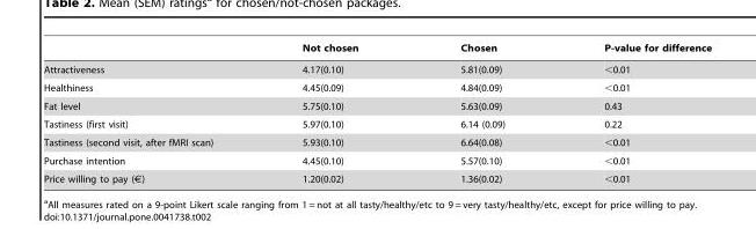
<table><thead><tr><td></td><td>Not chosen</td><td>Chosen</td><td>P-value for difference</td></tr></thead><tbody><tr><td>Attractiveness</td><td>4.17(0.10)</td><td>5.81(0.09)</td><td>&lt;0.01</td></tr><tr><td>Healthiness</td><td>4.45(0.09)</td><td>4.84(0.09)</td><td>&lt;0.01</td></tr><tr><td>Fat level</td><td>5.75(0.10)</td><td>5.63(0.09)</td><td>0.43</td></tr><tr><td>Tastiness (first visit)</td><td>5.97(0.10)</td><td>6.14 (0.09)</td><td>0.22</td></tr><tr><td>Tastiness (second visit, after fMRI scan)</td><td>5.93(0.10)</td><td>6.64(0.08)</td><td>&lt;0.01</td></tr><tr><td>Purchase intention</td><td>4.45(0.10)</td><td>5.57(0.10)</td><td>&lt;0.01</td></tr><tr><td>Price willing to pay (€)</td><td>1.20(0.02)</td><td>1.36(0.02)</td><td>&lt;0.01</td></tr></tbody></table>